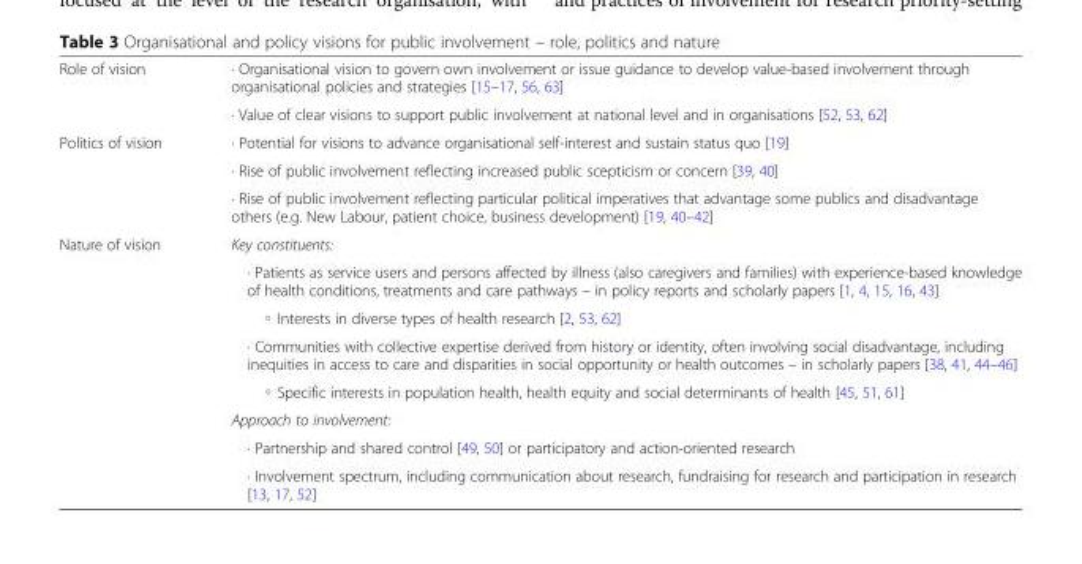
<table><tbody><tr><td rowspan="2">Role of vision</td><td>∙ Organisational vision to govern own involvement or issue guidance to develop value-based involvement through organisational policies and strategies [15–17, 56, 63]</td></tr><tr><td>∙ Value of clear visions to support public involvement at national level and in organisations [52, 53, 62]</td></tr><tr><td rowspan="3">Politics of vision</td><td>∙ Potential for visions to advance organisational self-interest and sustain status quo [19]</td></tr><tr><td>∙ Rise of public involvement reflecting increased public scepticism or concern [39, 40]</td></tr><tr><td>∙ Rise of public involvement reflecting particular political imperatives that advantage some publics and disadvantage others (e.g. New Labour, patient choice, business development) [19, 40–42]</td></tr><tr><td rowspan="8">Nature of vision</td><td>Key constituents:</td></tr><tr><td>∙ Patients as service users and persons affected by illness (also caregivers and families) with experience-based knowledge of health conditions, treatments and care pathways – in policy reports and scholarly papers [1, 4, 15, 16, 43]</td></tr><tr><td>◦ Interests in diverse types of health research [2, 53, 62]</td></tr><tr><td>∙ Communities with collective expertise derived from history or identity, often involving social disadvantage, including inequities in access to care and disparities in social opportunity or health outcomes – in scholarly papers [38, 41, 44–46]</td></tr><tr><td>◦ Specific interests in population health, health equity and social determinants of health [45, 51, 61]</td></tr><tr><td>Approach to involvement:</td></tr><tr><td>∙ Partnership and shared control [49, 50] or participatory and action-oriented research</td></tr><tr><td>∙ Involvement spectrum, including communication about research, fundraising for research and participation in research [13, 17, 52]</td></tr></tbody></table>